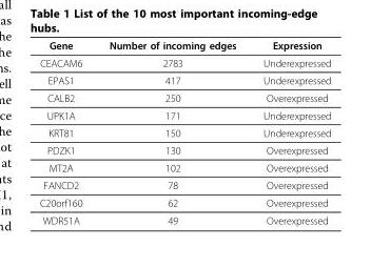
<table><thead><tr><td>Gene</td><td>Number of incoming edges</td><td>Expression</td></tr></thead><tbody><tr><td>CEACAM6</td><td>2783</td><td>Underexpressed</td></tr><tr><td>EPAS1</td><td>417</td><td>Underexpressed</td></tr><tr><td>CALB2</td><td>250</td><td>Overexpressed</td></tr><tr><td>UPK1A</td><td>171</td><td>Underexpressed</td></tr><tr><td>KRT81</td><td>150</td><td>Underexpressed</td></tr><tr><td>PDZK1</td><td>130</td><td>Overexpressed</td></tr><tr><td>MT2A</td><td>102</td><td>Overexpressed</td></tr><tr><td>FANCD2</td><td>78</td><td>Overexpressed</td></tr><tr><td>C20orf160</td><td>62</td><td>Overexpressed</td></tr><tr><td>WDR51A</td><td>49</td><td>Overexpressed</td></tr></tbody></table>